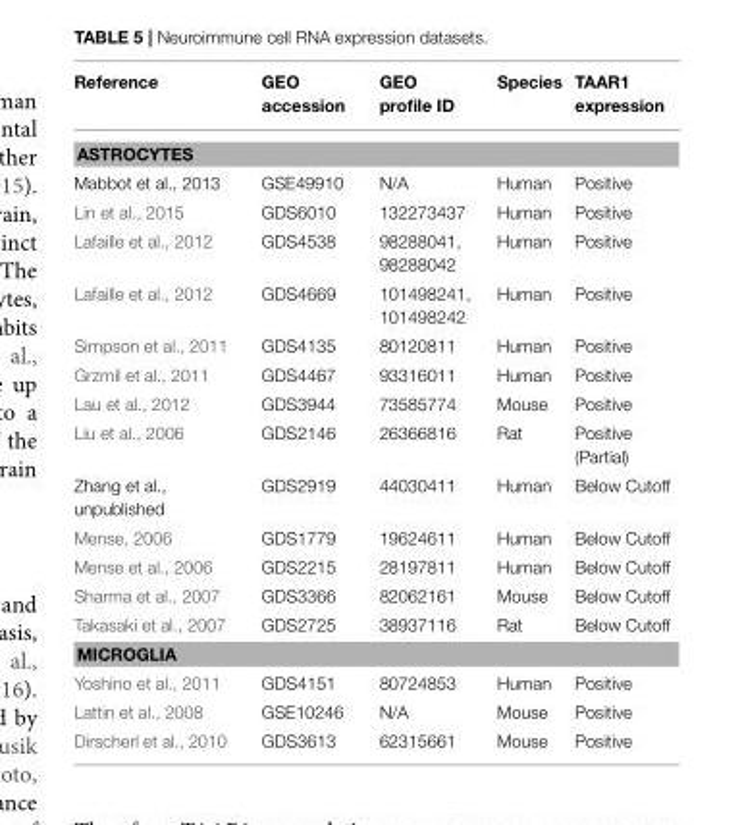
<table><thead><tr><td>Reference</td><td>GEO accession</td><td>GEO profile ID</td><td>Species</td><td>TAAR1 expression</td></tr></thead><tbody><tr><td colspan="5">ASTROCYTES</td></tr><tr><td>Mabbot et al., 2013</td><td>GSE49910</td><td>N/A</td><td>Human</td><td>Positive</td></tr><tr><td>Lin et al., 2015</td><td>GDS6010</td><td>132273437</td><td>Human</td><td>Positive</td></tr><tr><td>Lafaille et al., 2012</td><td>GDS4538</td><td>98288041, 98288042</td><td>Human</td><td>Positive</td></tr><tr><td>Lafaille et al., 2012</td><td>GDS4669</td><td>101498241, 101498242</td><td>Human</td><td>Positive</td></tr><tr><td>Simpson et al., 2011</td><td>GDS4135</td><td>80120811</td><td>Human</td><td>Positive</td></tr><tr><td>Grzmil et al., 2011</td><td>GDS4467</td><td>93316011</td><td>Human</td><td>Positive</td></tr><tr><td>Lau et al., 2012</td><td>GDS3944</td><td>73585774</td><td>Mouse</td><td>Positive</td></tr><tr><td>Liu et al., 2006</td><td>GDS2146</td><td>26366816</td><td>Rat</td><td>Positive (Partial)</td></tr><tr><td>Zhang et al., unpublished</td><td>GDS2919</td><td>44030411</td><td>Human</td><td>Below Cutoff</td></tr><tr><td>Mense, 2006</td><td>GDS1779</td><td>19624611</td><td>Human</td><td>Below Cutoff</td></tr><tr><td>Mense et al., 2006</td><td>GDS2215</td><td>28197811</td><td>Human</td><td>Below Cutoff</td></tr><tr><td>Sharma et al., 2007</td><td>GDS3366</td><td>82062161</td><td>Mouse</td><td>Below Cutoff</td></tr><tr><td>Takasaki et al., 2007</td><td>GDS2725</td><td>38937116</td><td>Rat</td><td>Below Cutoff</td></tr><tr><td colspan="5">MICROGLIA</td></tr><tr><td>Yoshino et al., 2011</td><td>GDS4151</td><td>80724853</td><td>Human</td><td>Positive</td></tr><tr><td>Lattin et al., 2008</td><td>GSE10246</td><td>N/A</td><td>Mouse</td><td>Positive</td></tr><tr><td>Dirscherl et al., 2010</td><td>GDS3613</td><td>62315661</td><td>Mouse</td><td>Positive</td></tr></tbody></table>